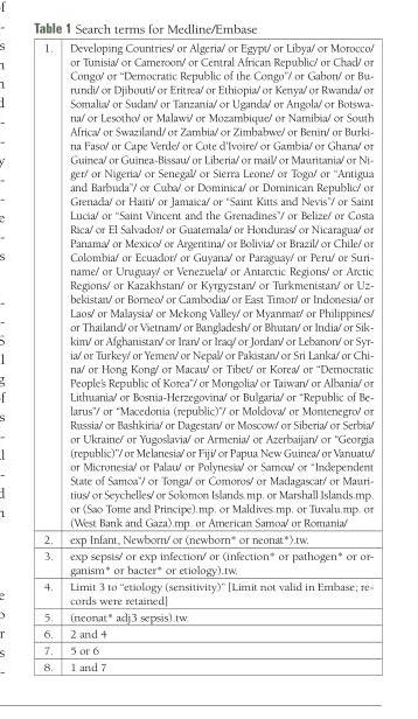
<table><tbody><tr><td>1.</td><td>Developing Countries/ or Algeria/ or Egypt/ or Libya/ or Morocco/ or Tunisia/ or Cameroon/ or Central African Republic/ or Chad/ or Congo/ or “Democratic Republic of the Congo”/ or Gabon/ or Bu- rundi/ or Djibouti/ or Eritrea/ or Ethiopia/ or Kenya/ or Rwanda/ or Somalia/ or Sudan/ or Tanzania/ or Uganda/ or Angola/ or Botswa- na/ or Lesotho/ or Malawi/ or Mozambique/ or Namibia/ or South Africa/ or Swaziland/ or Zambia/ or Zimbabwe/ or Benin/ or Burki- na Faso/ or Cape Verde/ or Cote d’Ivoire/ or Gambia/ or Ghana/ or Guinea/ or Guinea-Bissau/ or Liberia/ or mail/ or Mauritania/ or Ni- ger/ or Nigeria/ or Senegal/ or Sierra Leone/ or Togo/ or “Antigua and Barbuda”/ or Cuba/ or Dominica/ or Dominican Republic/ or Grenada/ or Haiti/ or Jamaica/ or “Saint Kitts and Nevis”/ or Saint Lucia/ or “Saint Vincent and the Grenadines”/ or Belize/ or Costa Rica/ or El Salvador/ or Guatemala/ or Honduras/ or Nicaragua/ or Panama/ or Mexico/ or Argentina/ or Bolivia/ or Brazil/ or Chile/ or Colombia/ or Ecuador/ or Guyana/ or Paraguay/ or Peru/ or Suri- name/ or Uruguay/ or Venezuela/ or Antarctic Regions/ or Arctic Regions/ or Kazakhstan/ or Kyrgyzstan/ or Turkmenistan/ or Uz- bekistan/ or Borneo/ or Cambodia/ or East Timor/ or Indonesia/ or Laos/ or Malaysia/ or Mekong Valley/ or Myanmar/ or Philippines/ or Thailand/ or Vietnam/ or Bangladesh/ or Bhutan/ or India/ or Sik- kim/ or Afghanistan/ or Iran/ or Iraq/ or Jordan/ or Lebanon/ or Syr- ia/ or Turkey/ or Yemen/ or Nepal/ or Pakistan/ or Sri Lanka/ or Chi- na/ or Hong Kong/ or Macau/ or Tibet/ or Korea/ or “Democratic People’s Republic of Korea”/ or Mongolia/ or Taiwan/ or Albania/ or Lithuania/ or Bosnia-Herzegovina/ or Bulgaria/ or “Republic of Be- larus”/ or “Macedonia (republic)”/ or Moldova/ or Montenegro/ or Russia/ or Bashkiria/ or Dagestan/ or Moscow/ or Siberia/ or Serbia/ or Ukraine/ or Yugoslavia/ or Armenia/ or Azerbaijan/ or “Georgia (republic)”/ or Melanesia/ or Fiji/ or Papua New Guinea/ or Vanuatu/ or Micronesia/ or Palau/ or Polynesia/ or Samoa/ or “Independent State of Samoa”/ or Tonga/ or Comoros/ or Madagascar/ or Mauri- tius/ or Seychelles/ or Solomon Islands.mp. or Marshall Islands.mp. or (Sao Tome and Principe).mp. or Maldives.mp. or Tuvalu.mp. or (West Bank and Gaza).mp. or American Samoa/ or Romania/</td></tr><tr><td>2.</td><td>exp Infant, Newborn/ or (newborn* or neonat*).tw.</td></tr><tr><td>3.</td><td>exp sepsis/ or exp infection/ or (infection* or pathogen* or or- ganism* or bacter* or etiology).tw.</td></tr><tr><td>4.</td><td>Limit 3 to “etiology (sensitivity)” [Limit not valid in Embase; re- cords were retained]</td></tr><tr><td>5.</td><td>(neonat* adj3 sepsis).tw.</td></tr><tr><td>6.</td><td>2 and 4</td></tr><tr><td>7.</td><td>5 or 6</td></tr><tr><td>8.</td><td>1 and 7</td></tr></tbody></table>